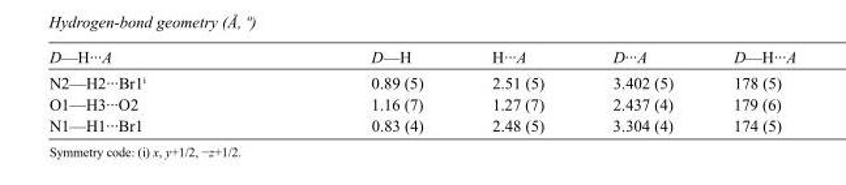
<table><tbody><tr><td>D—H···A</td><td>D—H</td><td>H···A</td><td>D···A</td><td>D—H···A</td></tr><tr><td>N2—H2···Br1<sup>i</sup></td><td>0.89 (5)</td><td>2.51 (5)</td><td>3.402 (5)</td><td>178 (5)</td></tr><tr><td>O1—H3···O2</td><td>1.16 (7)</td><td>1.27 (7)</td><td>2.437 (4)</td><td>179 (6)</td></tr><tr><td>N1—H1···Br1</td><td>0.83 (4)</td><td>2.48 (5)</td><td>3.304 (4)</td><td>174 (5)</td></tr></tbody></table>